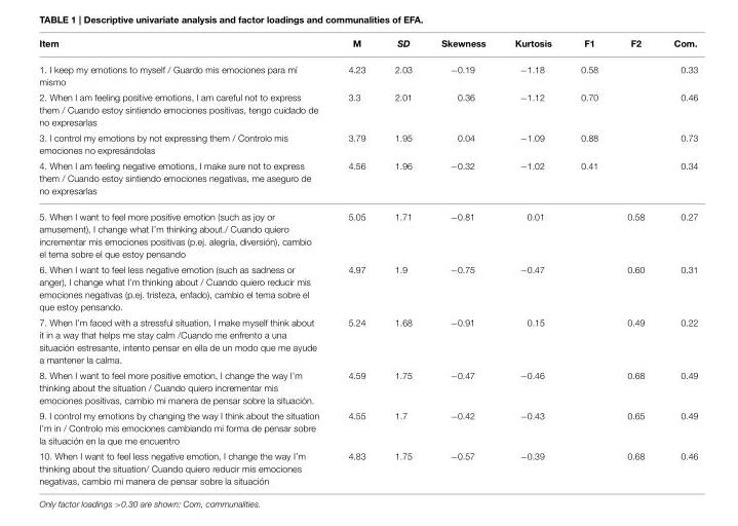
<table><thead><tr><td>Item</td><td>M</td><td>SD</td><td>Skewness</td><td>Kurtosis</td><td>F1</td><td>F2</td><td>Com.</td></tr></thead><tbody><tr><td>1. I keep my emotions to myself / Guardo mis emociones para mí mismo</td><td>4.23</td><td>2.03</td><td>−0.19</td><td>−1.18</td><td>0.58</td><td></td><td>0.33</td></tr><tr><td>2. When I am feeling positive emotions, I am careful not to express them / Cuando estoy sintiendo emociones positivas, tengo cuidado de no expresarlas</td><td>3.3</td><td>2.01</td><td>0.36</td><td>−1.12</td><td>0.70</td><td></td><td>0.46</td></tr><tr><td>3. I control my emotions by not expressing them / Controlo mis emociones no expresándolas</td><td>3.79</td><td>1.95</td><td>0.04</td><td>−1.09</td><td>0.88</td><td></td><td>0.73</td></tr><tr><td>4. When I am feeling negative emotions, I make sure not to express them / Cuando estoy sintiendo emociones negativas, me aseguro de no expresarlas</td><td>4.56</td><td>1.96</td><td>−0.32</td><td>−1.02</td><td>0.41</td><td></td><td>0.34</td></tr><tr><td>5. When I want to feel more positive emotion (such as joy or amusement), I change what I’m thinking about./ Cuando quiero incrementar mis emociones positivas (p.ej. alegría, diversión), cambio el tema sobre el que estoy pensando</td><td>5.05</td><td>1.71</td><td>−0.81</td><td>0.01</td><td></td><td>0.58</td><td>0.27</td></tr><tr><td>6. When I want to feel less negative emotion (such as sadness or anger), I change what I’m thinking about / Cuando quiero reducir mis emociones negativas (p.ej. tristeza, enfado), cambio el tema sobre el que estoy pensando.</td><td>4.97</td><td>1.9</td><td>−0.75</td><td>−0.47</td><td></td><td>0.60</td><td>0.31</td></tr><tr><td>7. When I’m faced with a stressful situation, I make myself think about it in a way that helps me stay calm /Cuando me enfrento a una situación estresante, intento pensar en ella de un modo que me ayude a mantener la calma.</td><td>5.24</td><td>1.68</td><td>−0.91</td><td>0.15</td><td></td><td>0.49</td><td>0.22</td></tr><tr><td>8. When I want to feel more positive emotion, I change the way I’m thinking about the situation / Cuando quiero incrementar mis emociones positivas, cambio mi manera de pensar sobre la situación.</td><td>4.59</td><td>1.75</td><td>−0.47</td><td>−0.46</td><td></td><td>0.68</td><td>0.49</td></tr><tr><td>9. I control my emotions by changing the way I think about the situation I’m in / Controlo mis emociones cambiando mi forma de pensar sobre la situación en la que me encuentro</td><td>4.55</td><td>1.7</td><td>−0.42</td><td>−0.43</td><td></td><td>0.65</td><td>0.49</td></tr><tr><td>10. When I want to feel less negative emotion, I change the way I’m thinking about the situation/ Cuando quiero reducir mis emociones negativas, cambio mi manera de pensar sobre la situación</td><td>4.83</td><td>1.75</td><td>−0.57</td><td>−0.39</td><td></td><td>0.68</td><td>0.46</td></tr></tbody></table>